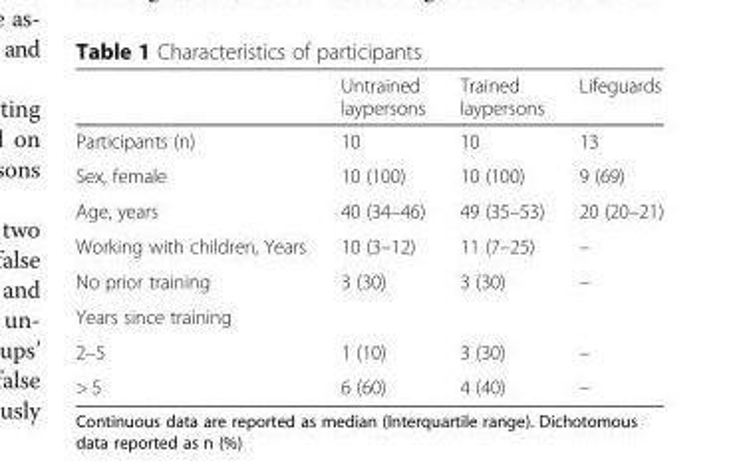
<table><thead><tr><td></td><td>Untrained laypersons</td><td>Trained laypersons</td><td>Lifeguards</td></tr></thead><tbody><tr><td>Participants (n)</td><td>10</td><td>10</td><td>13</td></tr><tr><td>Sex, female</td><td>10 (100)</td><td>10 (100)</td><td>9 (69)</td></tr><tr><td>Age, years</td><td>40 (34–46)</td><td>49 (35–53)</td><td>20 (20–21)</td></tr><tr><td>Working with children, Years</td><td>10 (3–12)</td><td>11 (7–25)</td><td>–</td></tr><tr><td>No prior training</td><td>3 (30)</td><td>3 (30)</td><td>–</td></tr><tr><td colspan="4">Years since training</td></tr><tr><td>2–5</td><td>1 (10)</td><td>3 (30)</td><td>–</td></tr><tr><td>&gt; 5</td><td>6 (60)</td><td>4 (40)</td><td>–</td></tr></tbody></table>